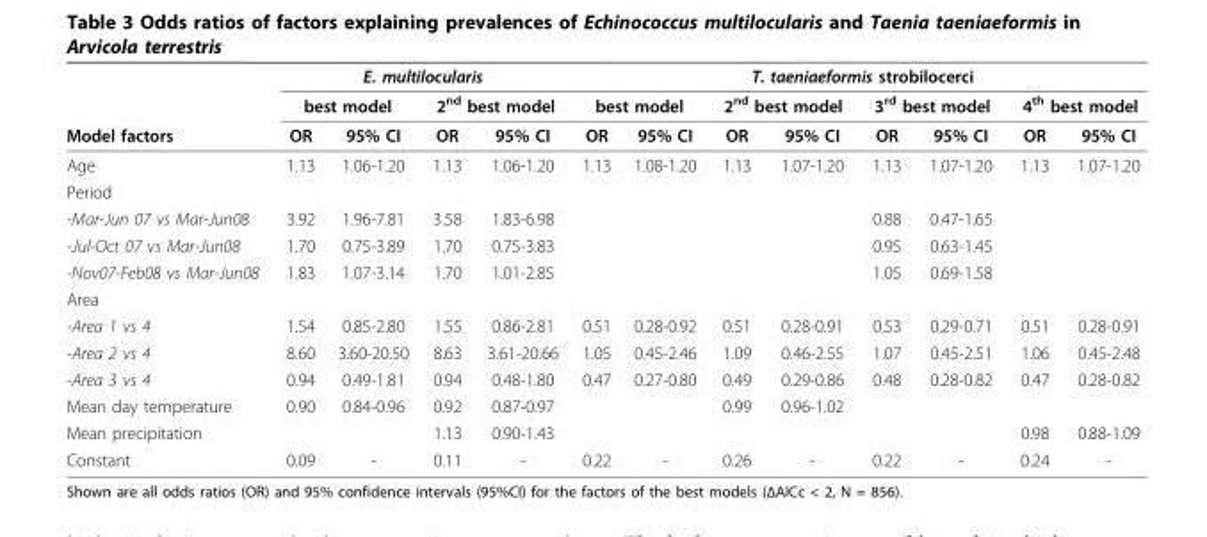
<table><thead><tr><td rowspan="3">Model factors</td><td colspan="4">E. multilocularis</td><td colspan="8">T. taeniaeformis strobilocerci</td></tr><tr><td colspan="2">best model</td><td colspan="2">2<sup>nd</sup> best model</td><td colspan="2">best model</td><td colspan="2">2<sup>nd</sup> best model</td><td colspan="2">3<sup>rd</sup> best model</td><td colspan="2">4<sup>th</sup> best model</td></tr><tr><td>OR</td><td>95% CI</td><td>OR</td><td>95% CI</td><td>OR</td><td>95% CI</td><td>OR</td><td>95% CI</td><td>OR</td><td>95% CI</td><td>OR</td><td>95% CI</td></tr></thead><tbody><tr><td>Age</td><td>1.13</td><td>1.06-1.20</td><td>1.13</td><td>1.06-1.20</td><td>1.13</td><td>1.08-1.20</td><td>1.13</td><td>1.07-1.20</td><td>1.13</td><td>1.07-1.20</td><td>1.13</td><td>1.07-1.20</td></tr><tr><td colspan="13">Period</td></tr><tr><td>-Mar-Jun 07 vs Mar-Jun08</td><td>3.92</td><td>1.96-7.81</td><td>3.58</td><td>1.83-6.98</td><td></td><td></td><td></td><td></td><td>0.88</td><td>0.47-1.65</td><td></td><td></td></tr><tr><td>-Jul-Oct 07 vs Mar-Jun08</td><td>1.70</td><td>0.75-3.89</td><td>1.70</td><td>0.75-3.83</td><td></td><td></td><td></td><td></td><td>0.95</td><td>0.63-1.45</td><td></td><td></td></tr><tr><td>-Nov07-Feb08 vs Mar-Jun08</td><td>1.83</td><td>1.07-3.14</td><td>1.70</td><td>1.01-2.85</td><td></td><td></td><td></td><td></td><td>1.05</td><td>0.69-1.58</td><td></td><td></td></tr><tr><td colspan="13">Area</td></tr><tr><td>-Area 1 vs 4</td><td>1.54</td><td>0.85-2.80</td><td>1.55</td><td>0.86-2.81</td><td>0.51</td><td>0.28-0.92</td><td>0.51</td><td>0.28-0.91</td><td>0.53</td><td>0.29-0.71</td><td>0.51</td><td>0.28-0.91</td></tr><tr><td>-Area 2 vs 4</td><td>8.60</td><td>3.60-20.50</td><td>8.63</td><td>3.61-20.66</td><td>1.05</td><td>0.45-2.46</td><td>1.09</td><td>0.46-2.55</td><td>1.07</td><td>0.45-2.51</td><td>1.06</td><td>0.45-2.48</td></tr><tr><td>-Area 3 vs 4</td><td>0.94</td><td>0.49-1.81</td><td>0.94</td><td>0.48-1.80</td><td>0.47</td><td>0.27-0.80</td><td>0.49</td><td>0.29-0.86</td><td>0.48</td><td>0.28-0.82</td><td>0.47</td><td>0.28-0.82</td></tr><tr><td>Mean day temperature</td><td>0.90</td><td>0.84-0.96</td><td>0.92</td><td>0.87-0.97</td><td></td><td></td><td>0.99</td><td>0.96-1.02</td><td></td><td></td><td></td><td></td></tr><tr><td>Mean precipitation</td><td></td><td></td><td>1.13</td><td>0.90-1.43</td><td></td><td></td><td></td><td></td><td></td><td></td><td>0.98</td><td>0.88-1.09</td></tr><tr><td>Constant</td><td>0.09</td><td>-</td><td>0.11</td><td>-</td><td>0.22</td><td>-</td><td>0.26</td><td>-</td><td>0.22</td><td>-</td><td>0.24</td><td>-</td></tr></tbody></table>